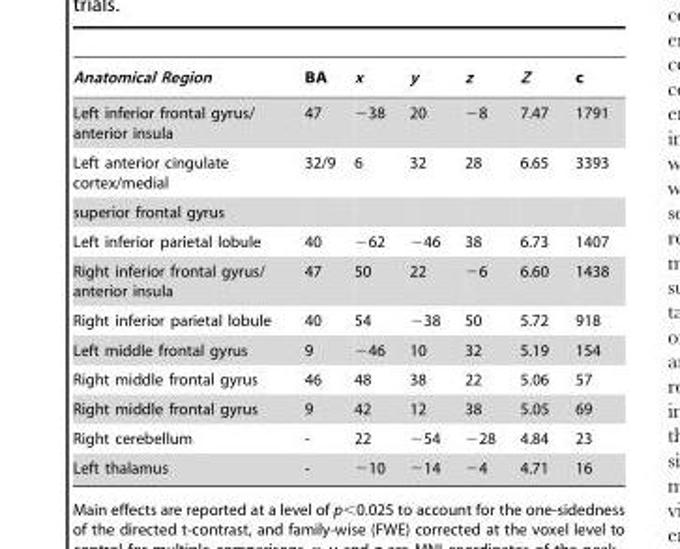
<table><thead><tr><td>Anatomical Region</td><td>BA</td><td>x</td><td>y</td><td>z</td><td>Z</td><td>c</td></tr></thead><tbody><tr><td>Left inferior frontal gyrus/ anterior insula</td><td>47</td><td>−38</td><td>20</td><td>−8</td><td>7.47</td><td>1791</td></tr><tr><td>Left anterior cingulate cortex/medial</td><td>32/9</td><td>6</td><td>32</td><td>28</td><td>6.65</td><td>3393</td></tr><tr><td colspan="7">superior frontal gyrus</td></tr><tr><td>Left inferior parietal lobule</td><td>40</td><td>−62</td><td>−46</td><td>38</td><td>6.73</td><td>1407</td></tr><tr><td>Right inferior frontal gyrus/ anterior insula</td><td>47</td><td>50</td><td>22</td><td>−6</td><td>6.60</td><td>1438</td></tr><tr><td>Right inferior parietal lobule</td><td>40</td><td>54</td><td>−38</td><td>50</td><td>5.72</td><td>918</td></tr><tr><td>Left middle frontal gyrus</td><td>9</td><td>−46</td><td>10</td><td>32</td><td>5.19</td><td>154</td></tr><tr><td>Right middle frontal gyrus</td><td>46</td><td>48</td><td>38</td><td>22</td><td>5.06</td><td>57</td></tr><tr><td>Right middle frontal gyrus</td><td>9</td><td>42</td><td>12</td><td>38</td><td>5.05</td><td>69</td></tr><tr><td>Right cerebellum</td><td>-</td><td>22</td><td>−54</td><td>−28</td><td>4.84</td><td>23</td></tr><tr><td>Left thalamus</td><td>-</td><td>−10</td><td>−14</td><td>−4</td><td>4.71</td><td>16</td></tr></tbody></table>